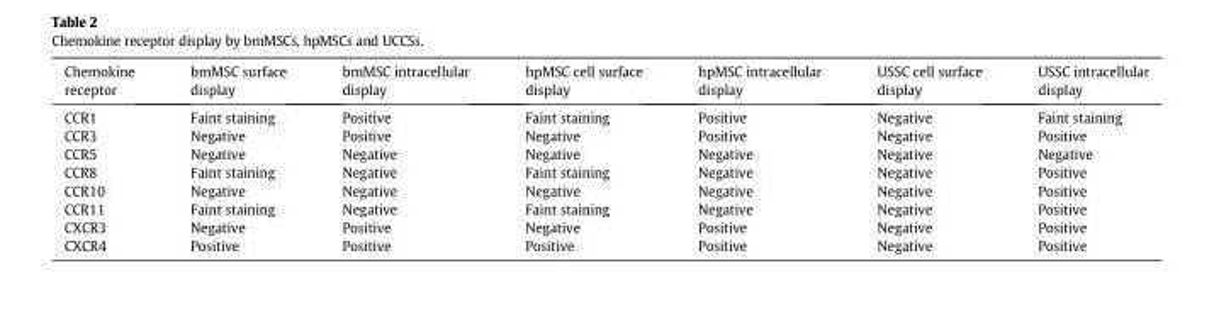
<table><thead><tr><td>Chemokine receptor</td><td>bmMSC surface display</td><td>bmMSC intracellular display</td><td>hpMSC cell surface display</td><td>hpMSC intracellular display</td><td>USSC cell surface display</td><td>USSC intracellular display</td></tr></thead><tbody><tr><td>CCR1</td><td>Faint staining</td><td>Positive</td><td>Faint staining</td><td>Positive</td><td>Negative</td><td>Faint staining</td></tr><tr><td>CCR3</td><td>Negative</td><td>Positive</td><td>Negative</td><td>Positive</td><td>Negative</td><td>Positive</td></tr><tr><td>CCR5</td><td>Negative</td><td>Negative</td><td>Negative</td><td>Negative</td><td>Negative</td><td>Negative</td></tr><tr><td>CCR8</td><td>Faint staining</td><td>Negative</td><td>Faint staining</td><td>Negative</td><td>Negative</td><td>Positive</td></tr><tr><td>CCR10</td><td>Negative</td><td>Negative</td><td>Negative</td><td>Negative</td><td>Negative</td><td>Positive</td></tr><tr><td>CCR11</td><td>Faint staining</td><td>Negative</td><td>Faint staining</td><td>Negative</td><td>Negative</td><td>Positive</td></tr><tr><td>CXCR3</td><td>Negative</td><td>Positive</td><td>Negative</td><td>Positive</td><td>Negative</td><td>Positive</td></tr><tr><td>CXCR4</td><td>Positive</td><td>Positive</td><td>Positive</td><td>Positive</td><td>Negative</td><td>Positive</td></tr></tbody></table>